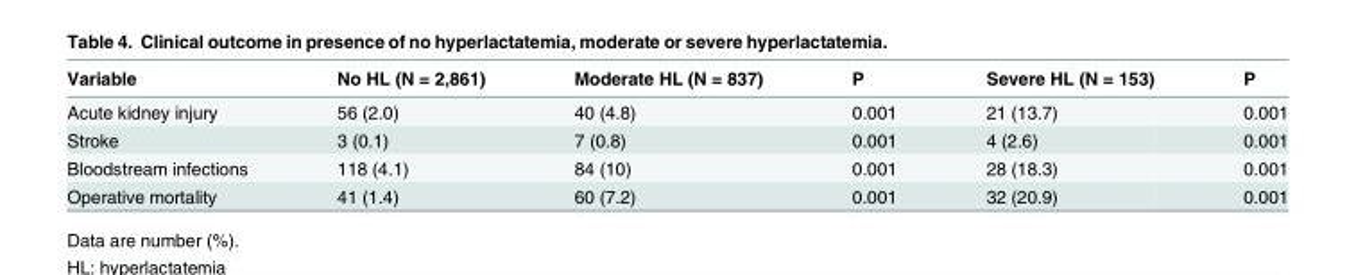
<table><thead><tr><td>Variable</td><td>No HL (N = 2,861)</td><td>Moderate HL (N = 837)</td><td>P</td><td>Severe HL (N = 153)</td><td>P</td></tr></thead><tbody><tr><td>Acute kidney injury</td><td>56 (2.0)</td><td>40 (4.8)</td><td>0.001</td><td>21 (13.7)</td><td>0.001</td></tr><tr><td>Stroke</td><td>3 (0.1)</td><td>7 (0.8)</td><td>0.001</td><td>4 (2.6)</td><td>0.001</td></tr><tr><td>Bloodstream infections</td><td>118 (4.1)</td><td>84 (10)</td><td>0.001</td><td>28 (18.3)</td><td>0.001</td></tr><tr><td>Operative mortality</td><td>41 (1.4)</td><td>60 (7.2)</td><td>0.001</td><td>32 (20.9)</td><td>0.001</td></tr></tbody></table>